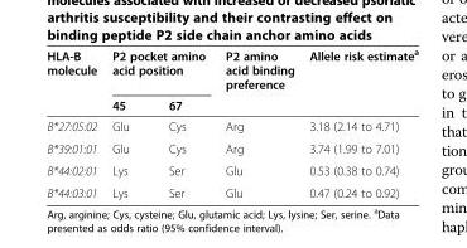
<table><thead><tr><td rowspan="2">HLA-B molecule</td><td colspan="2">P2 pocket amino acid position</td><td rowspan="2">P2 amino acid binding preference</td><td rowspan="2">Allele risk estimate<sup>a</sup></td></tr><tr><td>45</td><td>67</td></tr></thead><tbody><tr><td>B*27:05:02</td><td>Glu</td><td>Cys</td><td>Arg</td><td>3.18 (2.14 to 4.71)</td></tr><tr><td>B*39:01:01</td><td>Glu</td><td>Cys</td><td>Arg</td><td>3.74 (1.99 to 7.01)</td></tr><tr><td>B*44:02:01</td><td>Lys</td><td>Ser</td><td>Glu</td><td>0.53 (0.38 to 0.74)</td></tr><tr><td>B*44:03:01</td><td>Lys</td><td>Ser</td><td>Glu</td><td>0.47 (0.24 to 0.92)</td></tr></tbody></table>